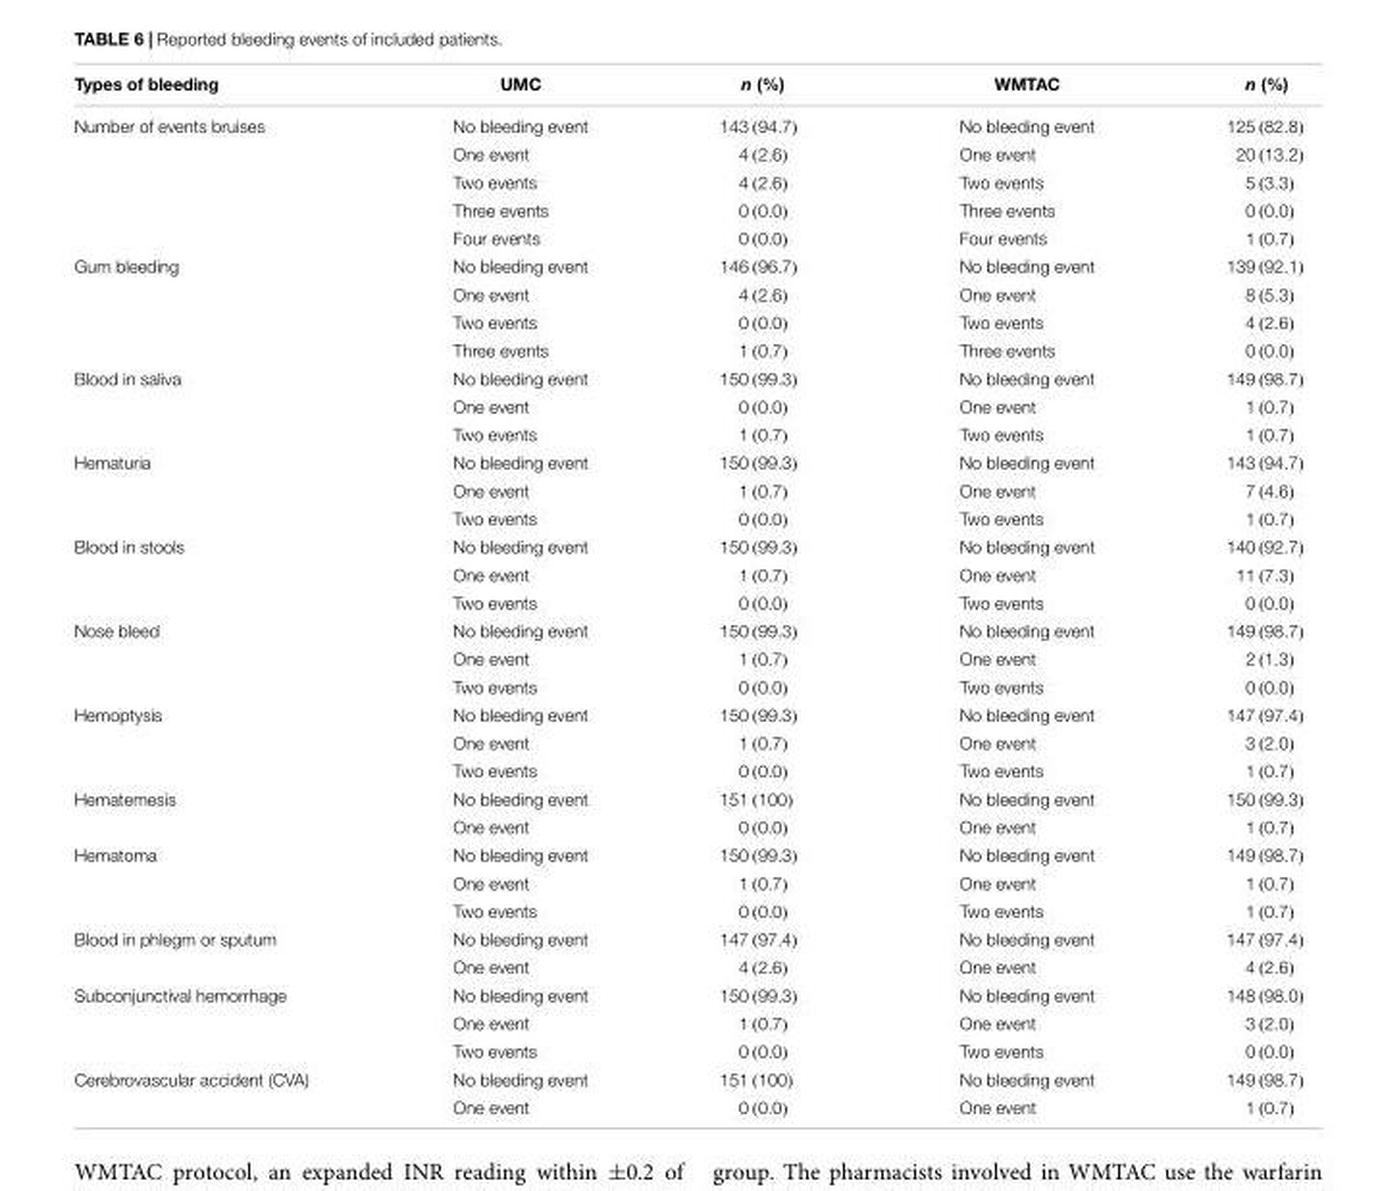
<table><thead><tr><td>Types of bleeding</td><td>UMC</td><td>n (%)</td><td>WMTAC</td><td>n (%)</td></tr></thead><tbody><tr><td rowspan="5">Number of events bruises</td><td>No bleeding event</td><td>143 (94.7)</td><td>No bleeding event</td><td>125 (82.8)</td></tr><tr><td>One event</td><td>4 (2.6)</td><td>One event</td><td>20 (13.2)</td></tr><tr><td>Two events</td><td>4 (2.6)</td><td>Two events</td><td>5 (3.3)</td></tr><tr><td>Three events</td><td>0 (0.0)</td><td>Three events</td><td>0 (0.0)</td></tr><tr><td>Four events</td><td>0 (0.0)</td><td>Four events</td><td>1 (0.7)</td></tr><tr><td rowspan="4">Gum bleeding</td><td>No bleeding event</td><td>146 (96.7)</td><td>No bleeding event</td><td>139 (92.1)</td></tr><tr><td>One event</td><td>4 (2.6)</td><td>One event</td><td>8 (5.3)</td></tr><tr><td>Two events</td><td>0 (0.0)</td><td>Two events</td><td>4 (2.6)</td></tr><tr><td>Three events</td><td>1 (0.7)</td><td>Three events</td><td>0 (0.0)</td></tr><tr><td rowspan="3">Blood in saliva</td><td>No bleeding event</td><td>150 (99.3)</td><td>No bleeding event</td><td>149 (98.7)</td></tr><tr><td>One event</td><td>0 (0.0)</td><td>One event</td><td>1 (0.7)</td></tr><tr><td>Two events</td><td>1 (0.7)</td><td>Two events</td><td>1 (0.7)</td></tr><tr><td rowspan="3">Hematuria</td><td>No bleeding event</td><td>150 (99.3)</td><td>No bleeding event</td><td>143 (94.7)</td></tr><tr><td>One event</td><td>1 (0.7)</td><td>One event</td><td>7 (4.6)</td></tr><tr><td>Two events</td><td>0 (0.0)</td><td>Two events</td><td>1 (0.7)</td></tr><tr><td rowspan="3">Blood in stools</td><td>No bleeding event</td><td>150 (99.3)</td><td>No bleeding event</td><td>140 (92.7)</td></tr><tr><td>One event</td><td>1 (0.7)</td><td>One event</td><td>11 (7.3)</td></tr><tr><td>Two events</td><td>0 (0.0)</td><td>Two events</td><td>0 (0.0)</td></tr><tr><td rowspan="3">Nose bleed</td><td>No bleeding event</td><td>150 (99.3)</td><td>No bleeding event</td><td>149 (98.7)</td></tr><tr><td>One event</td><td>1 (0.7)</td><td>One event</td><td>2 (1.3)</td></tr><tr><td>Two events</td><td>0 (0.0)</td><td>Two events</td><td>0 (0.0)</td></tr><tr><td rowspan="3">Hemoptysis</td><td>No bleeding event</td><td>150 (99.3)</td><td>No bleeding event</td><td>147 (97.4)</td></tr><tr><td>One event</td><td>1 (0.7)</td><td>One event</td><td>3 (2.0)</td></tr><tr><td>Two events</td><td>0 (0.0)</td><td>Two events</td><td>1 (0.7)</td></tr><tr><td rowspan="2">Hematemesis</td><td>No bleeding event</td><td>151 (100)</td><td>No bleeding event</td><td>150 (99.3)</td></tr><tr><td>One event</td><td>0 (0.0)</td><td>One event</td><td>1 (0.7)</td></tr><tr><td rowspan="3">Hematoma</td><td>No bleeding event</td><td>150 (99.3)</td><td>No bleeding event</td><td>149 (98.7)</td></tr><tr><td>One event</td><td>1 (0.7)</td><td>One event</td><td>1 (0.7)</td></tr><tr><td>Two events</td><td>0 (0.0)</td><td>Two events</td><td>1 (0.7)</td></tr><tr><td rowspan="2">Blood in phlegm or sputum</td><td>No bleeding event</td><td>147 (97.4)</td><td>No bleeding event</td><td>147 (97.4)</td></tr><tr><td>One event</td><td>4 (2.6)</td><td>One event</td><td>4 (2.6)</td></tr><tr><td rowspan="3">Subconjunctival hemorrhage</td><td>No bleeding event</td><td>150 (99.3)</td><td>No bleeding event</td><td>148 (98.0)</td></tr><tr><td>One event</td><td>1 (0.7)</td><td>One event</td><td>3 (2.0)</td></tr><tr><td>Two events</td><td>0 (0.0)</td><td>Two events</td><td>0 (0.0)</td></tr><tr><td rowspan="2">Cerebrovascular accident (CVA)</td><td>No bleeding event</td><td>151 (100)</td><td>No bleeding event</td><td>149 (98.7)</td></tr><tr><td>One event</td><td>0 (0.0)</td><td>One event</td><td>1 (0.7)</td></tr></tbody></table>